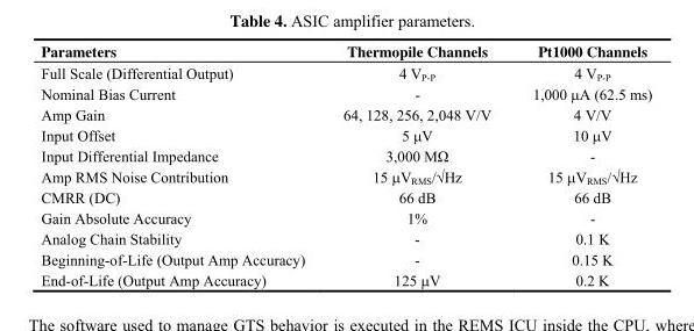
<table><thead><tr><td>Parameters</td><td>Thermopile Channels</td><td>Pt1000 Channels</td></tr></thead><tbody><tr><td>Full Scale (Differential Output)</td><td>4 V<sub>P-P</sub></td><td>4 V<sub>P-P</sub></td></tr><tr><td>Nominal Bias Current</td><td>-</td><td>1,000 62.5 ms)</td></tr><tr><td>Amp Gain</td><td>64, 128, 256, 2,048 V/V</td><td>4 V/V</td></tr><tr><td>Input Offset</td><td>5 μV</td><td>10 μV</td></tr><tr><td>Input Differential Impedance</td><td>3,000 MΩ</td><td>-</td></tr><tr><td>Amp RMS Noise Contribution</td><td>15 μV<sub>RMS</sub>/√Hz</td><td>15 μV<sub>RMS</sub>/√Hz</td></tr><tr><td>CMRR (DC)</td><td>66 dB</td><td>66 dB</td></tr><tr><td>Gain Absolute Accuracy</td><td>1%</td><td>-</td></tr><tr><td>Analog Chain Stability</td><td>-</td><td>0.1 K</td></tr><tr><td>Beginning-of-Life (Output Amp Accuracy)</td><td>-</td><td>0.15 K</td></tr><tr><td>End-of-Life (Output Amp Accuracy)</td><td>125 μV</td><td>0.2 K</td></tr></tbody></table>